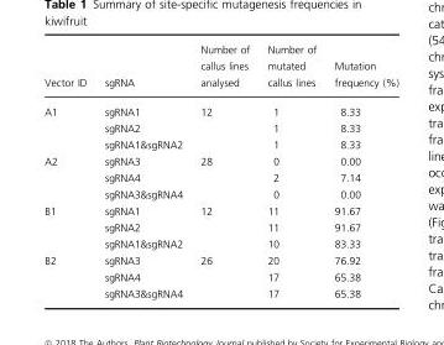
<table><thead><tr><td>Vector ID</td><td>sgRNA</td><td>Number of callus lines analysed</td><td>Number of mutated callus lines</td><td>Mutation frequency (%)</td></tr></thead><tbody><tr><td rowspan="3">A1</td><td>sgRNA1</td><td rowspan="3">12</td><td>1</td><td>8.33</td></tr><tr><td>sgRNA2</td><td>1</td><td>8.33</td></tr><tr><td>sgRNA1&amp;sgRNA2</td><td>1</td><td>8.33</td></tr><tr><td rowspan="3">A2</td><td>sgRNA3</td><td rowspan="3">28</td><td>0</td><td>0.00</td></tr><tr><td>sgRNA4</td><td>2</td><td>7.14</td></tr><tr><td>sgRNA3&amp;sgRNA4</td><td>0</td><td>0.00</td></tr><tr><td rowspan="3">B1</td><td>sgRNA1</td><td rowspan="3">12</td><td>11</td><td>91.67</td></tr><tr><td>sgRNA2</td><td>11</td><td>91.67</td></tr><tr><td>sgRNA1&amp;sgRNA2</td><td>10</td><td>83.33</td></tr><tr><td rowspan="3">B2</td><td>sgRNA3</td><td rowspan="3">26</td><td>20</td><td>76.92</td></tr><tr><td>sgRNA4</td><td>17</td><td>65.38</td></tr><tr><td>sgRNA3&amp;sgRNA4</td><td>17</td><td>65.38</td></tr></tbody></table>